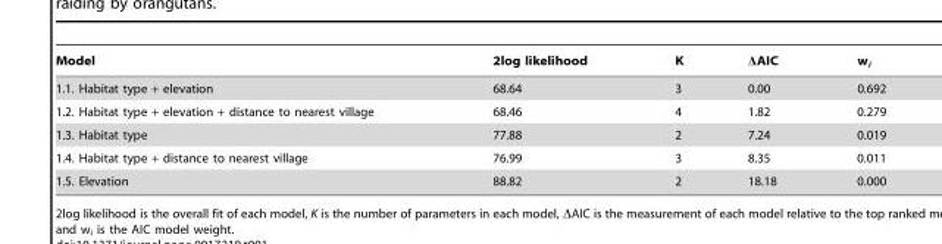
<table><thead><tr><td>Model</td><td>2log likelihood</td><td>K</td><td>ΔAIC</td><td>w<sub>i</sub></td></tr></thead><tbody><tr><td>1.1. Habitat type + elevation</td><td>68.64</td><td>3</td><td>0.00</td><td>0.692</td></tr><tr><td>1.2. Habitat type + elevation + distance to nearest village</td><td>68.46</td><td>4</td><td>1.82</td><td>0.279</td></tr><tr><td>1.3. Habitat type</td><td>77.88</td><td>2</td><td>7.24</td><td>0.019</td></tr><tr><td>1.4. Habitat type + distance to nearest village</td><td>76.99</td><td>3</td><td>8.35</td><td>0.011</td></tr><tr><td>1.5. Elevation</td><td>88.82</td><td>2</td><td>18.18</td><td>0.000</td></tr></tbody></table>